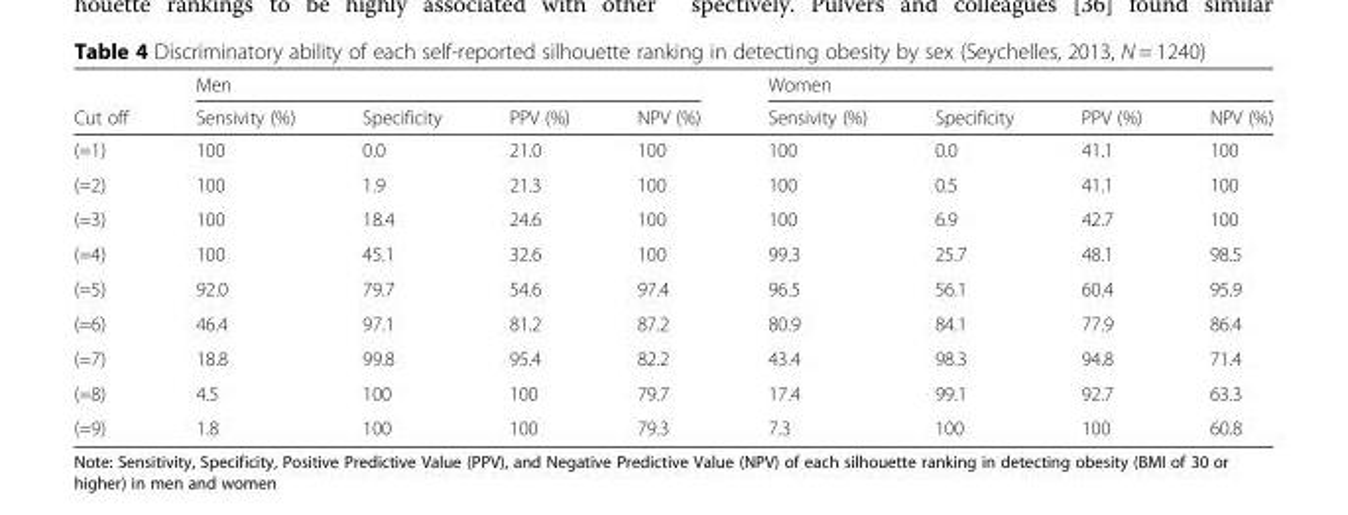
<table><thead><tr><td rowspan="2">Cut off</td><td colspan="4">Men</td><td colspan="4">Women</td></tr><tr><td>Sensivity (%)</td><td>Specificity</td><td>PPV (%)</td><td>NPV (%)</td><td>Sensivity (%)</td><td>Specificity</td><td>PPV (%)</td><td>NPV (%)</td></tr></thead><tbody><tr><td>(=1)</td><td>100</td><td>0.0</td><td>21.0</td><td>100</td><td>100</td><td>0.0</td><td>41.1</td><td>100</td></tr><tr><td>(=2)</td><td>100</td><td>1.9</td><td>21.3</td><td>100</td><td>100</td><td>0.5</td><td>41.1</td><td>100</td></tr><tr><td>(=3)</td><td>100</td><td>18.4</td><td>24.6</td><td>100</td><td>100</td><td>6.9</td><td>42.7</td><td>100</td></tr><tr><td>(=4)</td><td>100</td><td>45.1</td><td>32.6</td><td>100</td><td>99.3</td><td>25.7</td><td>48.1</td><td>98.5</td></tr><tr><td>(=5)</td><td>92.0</td><td>79.7</td><td>54.6</td><td>97.4</td><td>96.5</td><td>56.1</td><td>60.4</td><td>95.9</td></tr><tr><td>(=6)</td><td>46.4</td><td>97.1</td><td>81.2</td><td>87.2</td><td>80.9</td><td>84.1</td><td>77.9</td><td>86.4</td></tr><tr><td>(=7)</td><td>18.8</td><td>99.8</td><td>95.4</td><td>82.2</td><td>43.4</td><td>98.3</td><td>94.8</td><td>71.4</td></tr><tr><td>(=8)</td><td>4.5</td><td>100</td><td>100</td><td>79.7</td><td>17.4</td><td>99.1</td><td>92.7</td><td>63.3</td></tr><tr><td>(=9)</td><td>1.8</td><td>100</td><td>100</td><td>79.3</td><td>7.3</td><td>100</td><td>100</td><td>60.8</td></tr></tbody></table>